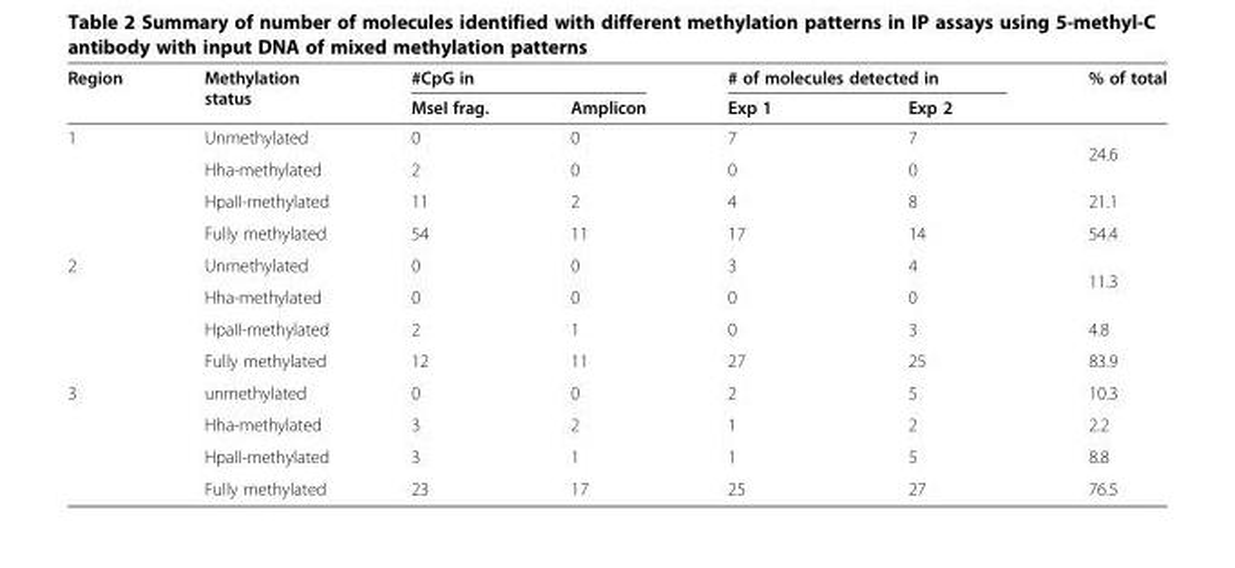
<table><thead><tr><td rowspan="2">Region</td><td rowspan="2">Methylation status</td><td colspan="2">#CpG in</td><td colspan="2"># of molecules detected in</td><td rowspan="2">% of total</td></tr><tr><td>MseI frag.</td><td>Amplicon</td><td>Exp 1</td><td>Exp 2</td></tr></thead><tbody><tr><td rowspan="4">1</td><td>Unmethylated</td><td>0</td><td>0</td><td>7</td><td>7</td><td rowspan="2">24.6</td></tr><tr><td>Hha-methylated</td><td>2</td><td>0</td><td>0</td><td>0</td></tr><tr><td>HpaII-methylated</td><td>11</td><td>2</td><td>4</td><td>8</td><td>21.1</td></tr><tr><td>Fully methylated</td><td>54</td><td>11</td><td>17</td><td>14</td><td>54.4</td></tr><tr><td rowspan="4">2</td><td>Unmethylated</td><td>0</td><td>0</td><td>3</td><td>4</td><td rowspan="2">11.3</td></tr><tr><td>Hha-methylated</td><td>0</td><td>0</td><td>0</td><td>0</td></tr><tr><td>HpaII-methylated</td><td>2</td><td>1</td><td>0</td><td>3</td><td>4.8</td></tr><tr><td>Fully methylated</td><td>12</td><td>11</td><td>27</td><td>25</td><td>83.9</td></tr><tr><td rowspan="4">3</td><td>unmethylated</td><td>0</td><td>0</td><td>2</td><td>5</td><td>10.3</td></tr><tr><td>Hha-methylated</td><td>3</td><td>2</td><td>1</td><td>2</td><td>2.2</td></tr><tr><td>HpaII-methylated</td><td>3</td><td>1</td><td>1</td><td>5</td><td>8.8</td></tr><tr><td>Fully methylated</td><td>23</td><td>17</td><td>25</td><td>27</td><td>76.5</td></tr></tbody></table>